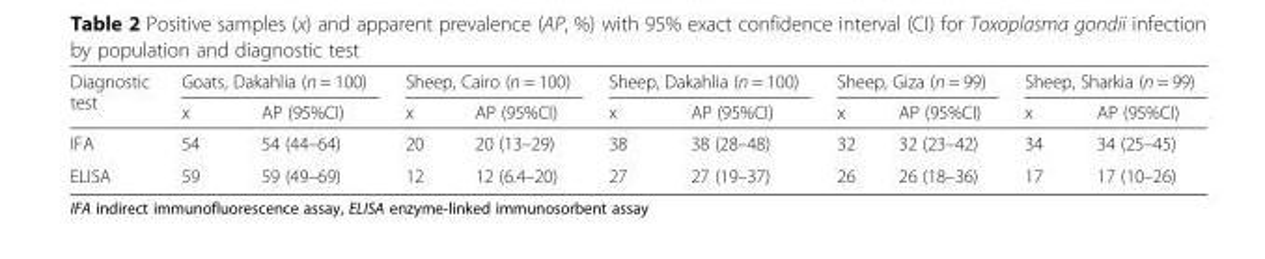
<table><thead><tr><td rowspan="2">Diagnostic test</td><td colspan="2">Goats, Dakahlia (n = 100)</td><td colspan="2">Sheep, Cairo (n = 100)</td><td colspan="2">Sheep, Dakahlia (n = 100)</td><td colspan="2">Sheep, Giza (n = 99)</td><td colspan="2">Sheep, Sharkia (n = 99)</td></tr><tr><td>x</td><td>AP (95%CI)</td><td>x</td><td>AP (95%CI)</td><td>x</td><td>AP (95%CI)</td><td>x</td><td>AP (95%CI)</td><td>x</td><td>AP (95%CI)</td></tr></thead><tbody><tr><td>IFA</td><td>54</td><td>54 (44–64)</td><td>20</td><td>20 (13–29)</td><td>38</td><td>38 (28–48)</td><td>32</td><td>32 (23–42)</td><td>34</td><td>34 (25–45)</td></tr><tr><td>ELISA</td><td>59</td><td>59 (49–69)</td><td>12</td><td>12 (6.4–20)</td><td>27</td><td>27 (19–37)</td><td>26</td><td>26 (18–36)</td><td>17</td><td>17 (10–26)</td></tr></tbody></table>